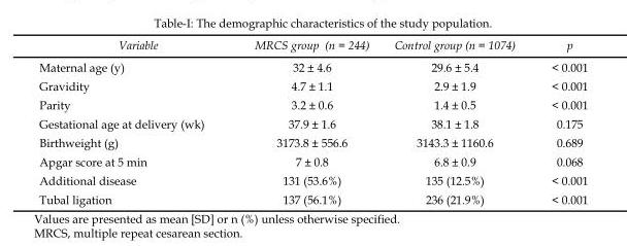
<table><thead><tr><td>Variable</td><td>MRCS group (n = 244)</td><td>Control group (n = 1074)</td><td>p</td></tr></thead><tbody><tr><td>Maternal age (y)</td><td>32 ± 4.6</td><td>29.6 ± 5.4</td><td>&lt; 0.001</td></tr><tr><td>Gravidity</td><td>4.7 ± 1.1</td><td>2.9 ± 1.9</td><td>&lt; 0.001</td></tr><tr><td>Parity</td><td>3.2 ± 0.6</td><td>1.4 ± 0.5</td><td>&lt; 0.001</td></tr><tr><td>Gestational age at delivery (wk)</td><td>37.9 ± 1.6</td><td>38.1 ± 1.8</td><td>0.175</td></tr><tr><td>Birthweight (g)</td><td>3173.8 ± 556.6</td><td>3143.3 ± 1160.6</td><td>0.689</td></tr><tr><td>Apgar score at 5 min</td><td>7 ± 0.8</td><td>6.8 ± 0.9</td><td>0.068</td></tr><tr><td>Additional disease</td><td>131 (53.6%)</td><td>135 (12.5%)</td><td>&lt; 0.001</td></tr><tr><td>Tubal ligation</td><td>137 (56.1%)</td><td>236 (21.9%)</td><td>&lt; 0.001</td></tr></tbody></table>